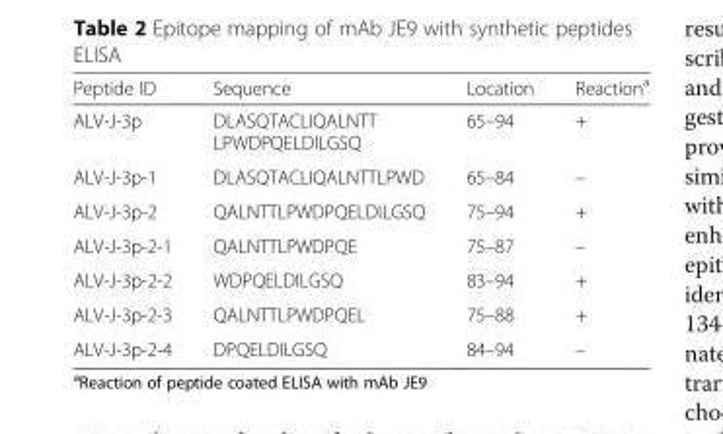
<table><thead><tr><td>Peptide ID</td><td>Sequence</td><td>Location</td><td>Reaction<sup>a</sup></td></tr></thead><tbody><tr><td>ALV-J-3p</td><td>DLASQTACLIQALNTT LPWDPQELDILGSQ</td><td>65–94</td><td>+</td></tr><tr><td>ALV-J-3p-1</td><td>DLASQTACLIQALNTTLPWD</td><td>65–84</td><td>–</td></tr><tr><td>ALV-J-3p-2</td><td>QALNTTLPWDPQELDILGSQ</td><td>75–94</td><td>+</td></tr><tr><td>ALV-J-3p-2-1</td><td>QALNTTLPWDPQE</td><td>75–87</td><td>–</td></tr><tr><td>ALV-J-3p-2-2</td><td>WDPQELDILGSQ</td><td>83–94</td><td>+</td></tr><tr><td>ALV-J-3p-2-3</td><td>QALNTTLPWDPQEL</td><td>75–88</td><td>+</td></tr><tr><td>ALV-J-3p-2-4</td><td>DPQELDILGSQ</td><td>84–94</td><td>–</td></tr></tbody></table>